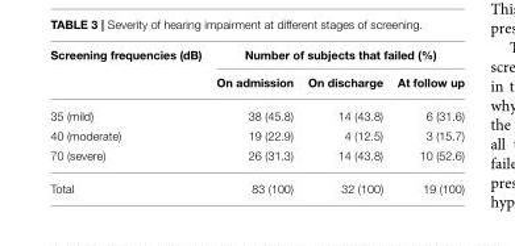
<table><thead><tr><td rowspan="2">Screening frequencies (dB)</td><td colspan="3">Number of subjects that failed (%)</td></tr><tr><td>On admission</td><td>On discharge</td><td>At follow up</td></tr></thead><tbody><tr><td>35 (mild)</td><td>38 (45.8)</td><td>14 (43.8)</td><td>6 (31.6)</td></tr><tr><td>40 (moderate)</td><td>19 (22.9)</td><td>4 (12.5)</td><td>3 (15.7)</td></tr><tr><td>70 (severe)</td><td>26 (31.3)</td><td>14 (43.8)</td><td>10 (52.6)</td></tr><tr><td>Total</td><td>83 (100)</td><td>32 (100)</td><td>19 (100)</td></tr></tbody></table>